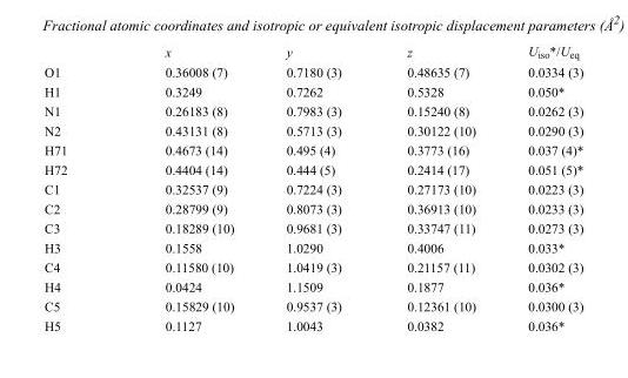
<table><thead><tr><td></td><td>x</td><td>y</td><td>z</td><td>U<sub>iso</sub>*/U<sub>eq</sub></td></tr></thead><tbody><tr><td>O1</td><td>0.36008 (7)</td><td>0.7180 (3)</td><td>0.48635 (7)</td><td>0.0334 (3)</td></tr><tr><td>H1</td><td>0.3249</td><td>0.7262</td><td>0.5328</td><td>0.050*</td></tr><tr><td>N1</td><td>0.26183 (8)</td><td>0.7983 (3)</td><td>0.15240 (8)</td><td>0.0262 (3)</td></tr><tr><td>N2</td><td>0.43131 (8)</td><td>0.5713 (3)</td><td>0.30122 (10)</td><td>0.0290 (3)</td></tr><tr><td>H71</td><td>0.4673 (14)</td><td>0.495 (4)</td><td>0.3773 (16)</td><td>0.037 (4)*</td></tr><tr><td>H72</td><td>0.4404 (14)</td><td>0.444 (5)</td><td>0.2414 (17)</td><td>0.051 (5)*</td></tr><tr><td>C1</td><td>0.32537 (9)</td><td>0.7224 (3)</td><td>0.27173 (10)</td><td>0.0223 (3)</td></tr><tr><td>C2</td><td>0.28799 (9)</td><td>0.8073 (3)</td><td>0.36913 (10)</td><td>0.0233 (3)</td></tr><tr><td>C3</td><td>0.18289 (10)</td><td>0.9681 (3)</td><td>0.33747 (11)</td><td>0.0273 (3)</td></tr><tr><td>H3</td><td>0.1558</td><td>1.0290</td><td>0.4006</td><td>0.033*</td></tr><tr><td>C4</td><td>0.11580 (10)</td><td>1.0419 (3)</td><td>0.21157 (11)</td><td>0.0302 (3)</td></tr><tr><td>H4</td><td>0.0424</td><td>1.1509</td><td>0.1877</td><td>0.036*</td></tr><tr><td>C5</td><td>0.15829 (10)</td><td>0.9537 (3)</td><td>0.12361 (10)</td><td>0.0300 (3)</td></tr><tr><td>H5</td><td>0.1127</td><td>1.0043</td><td>0.0382</td><td>0.036*</td></tr></tbody></table>